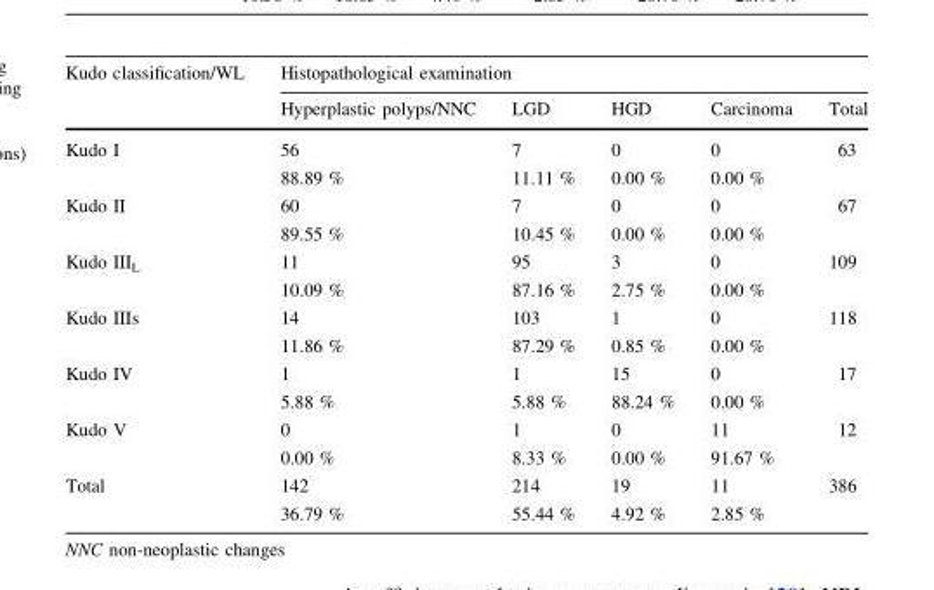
<table><thead><tr><td rowspan="2">Kudo classification/WL</td><td colspan="5">Histopathological examination</td></tr><tr><td>Hyperplastic polyps/NNC</td><td>LGD</td><td>HGD</td><td>Carcinoma</td><td>Total</td></tr></thead><tbody><tr><td rowspan="2">Kudo I</td><td>56</td><td>7</td><td>0</td><td>0</td><td rowspan="2">63</td></tr><tr><td>88.89 %</td><td>11.11 %</td><td>0.00 %</td><td>0.00 %</td></tr><tr><td rowspan="2">Kudo II</td><td>60</td><td>7</td><td>0</td><td>0</td><td rowspan="2">67</td></tr><tr><td>89.55 %</td><td>10.45 %</td><td>0.00 %</td><td>0.00 %</td></tr><tr><td rowspan="2">Kudo III<sub>L</sub></td><td>11</td><td>95</td><td>3</td><td>0</td><td rowspan="2">109</td></tr><tr><td>10.09 %</td><td>87.16 %</td><td>2.75 %</td><td>0.00 %</td></tr><tr><td rowspan="2">Kudo IIIs</td><td>14</td><td>103</td><td>1</td><td>0</td><td rowspan="2">118</td></tr><tr><td>11.86 %</td><td>87.29 %</td><td>0.85 %</td><td>0.00 %</td></tr><tr><td rowspan="2">Kudo IV</td><td>1</td><td>1</td><td>15</td><td>0</td><td rowspan="2">17</td></tr><tr><td>5.88 %</td><td>5.88 %</td><td>88.24 %</td><td>0.00 %</td></tr><tr><td rowspan="2">Kudo V</td><td>0</td><td>1</td><td>0</td><td>11</td><td rowspan="2">12</td></tr><tr><td>0.00 %</td><td>8.33 %</td><td>0.00 %</td><td>91.67 %</td></tr><tr><td rowspan="2">Total</td><td>142</td><td>214</td><td>19</td><td>11</td><td rowspan="2">386</td></tr><tr><td>36.79 %</td><td>55.44 %</td><td>4.92 %</td><td>2.85 %</td></tr></tbody></table>